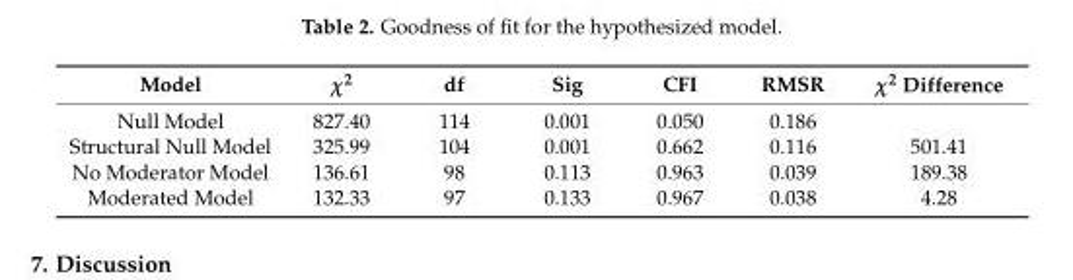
<table><thead><tr><td>Model</td><td>χ<sup>2</sup></td><td>df</td><td>Sig</td><td>CFI</td><td>RMSR</td><td>χ<sup>2</sup> Difference</td></tr></thead><tbody><tr><td>Null Model</td><td>827.40</td><td>114</td><td>0.001</td><td>0.050</td><td>0.186</td><td></td></tr><tr><td>Structural Null Model</td><td>325.99</td><td>104</td><td>0.001</td><td>0.662</td><td>0.116</td><td>501.41</td></tr><tr><td>No Moderator Model</td><td>136.61</td><td>98</td><td>0.113</td><td>0.963</td><td>0.039</td><td>189.38</td></tr><tr><td>Moderated Model</td><td>132.33</td><td>97</td><td>0.133</td><td>0.967</td><td>0.038</td><td>4.28</td></tr></tbody></table>